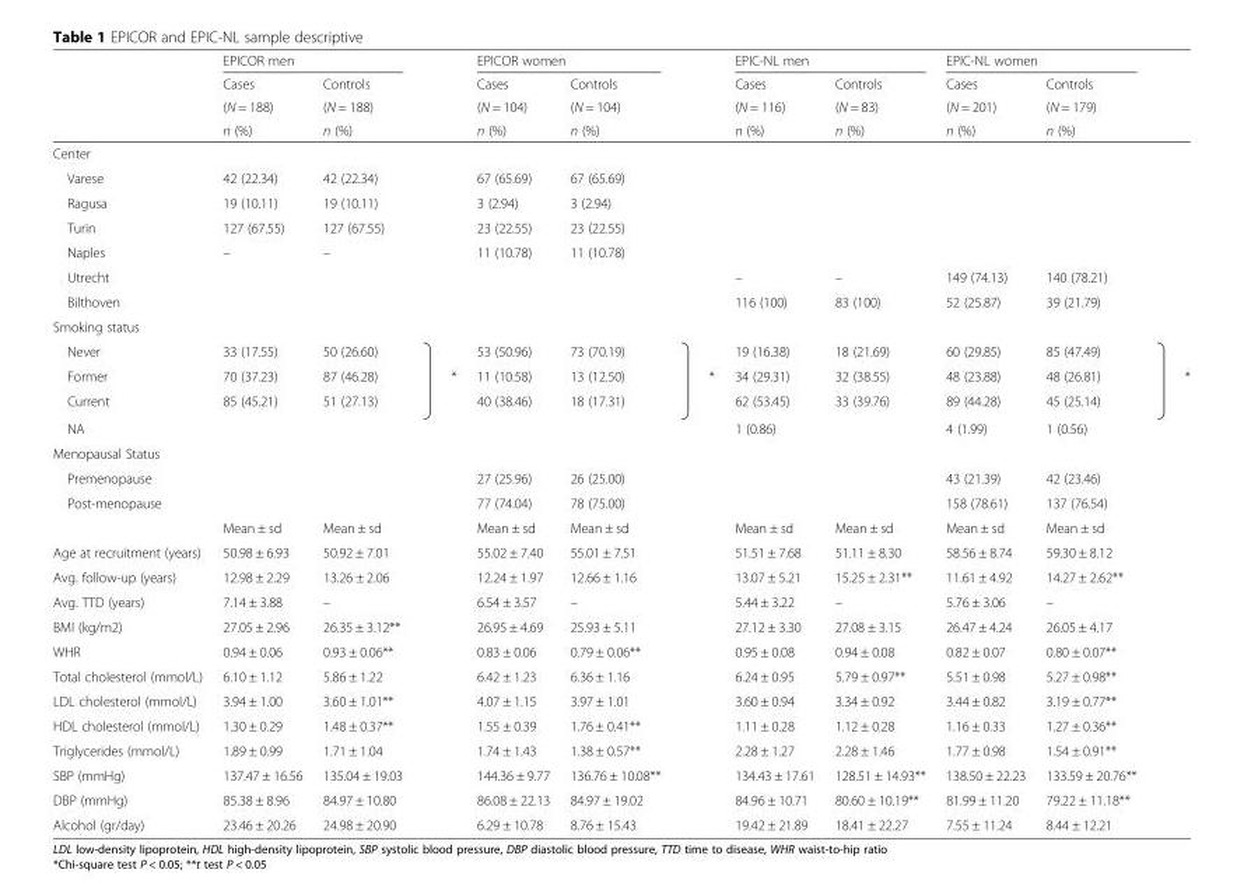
<table><thead><tr><td rowspan="4"></td><td colspan="2">EPICOR men</td><td rowspan="4"></td><td colspan="2">EPICOR women</td><td rowspan="4"></td><td colspan="2">EPIC-NL men</td><td colspan="2">EPIC-NL women</td><td rowspan="4"></td></tr><tr><td rowspan="3">Cases (N = 188) n (%)</td><td rowspan="3">Controls (N = 188) n (%)</td><td rowspan="3">Cases (N = 104) n (%)</td><td rowspan="3">Controls (N = 104) n (%)</td><td rowspan="3">Cases (N = 116) n (%)</td><td rowspan="3">Controls (N = 83) n (%)</td><td rowspan="3">Cases (N = 201) n (%)</td><td rowspan="3">Controls (N = 179) n (%)</td></tr><tr></tr><tr></tr></thead><tbody><tr><td colspan="12">Center</td></tr><tr><td>Varese</td><td>42 (22.34)</td><td>42 (22.34)</td><td></td><td>67 (65.69)</td><td>67 (65.69)</td><td></td><td></td><td></td><td></td><td></td><td></td></tr><tr><td>Ragusa</td><td>19 (10.11)</td><td>19 (10.11)</td><td></td><td>3 (2.94)</td><td>3 (2.94)</td><td></td><td></td><td></td><td></td><td></td><td></td></tr><tr><td>Turin</td><td>127 (67.55)</td><td>127 (67.55)</td><td></td><td>23 (22.55)</td><td>23 (22.55)</td><td></td><td></td><td></td><td></td><td></td><td></td></tr><tr><td>Naples</td><td>–</td><td>–</td><td></td><td>11 (10.78)</td><td>11 (10.78)</td><td></td><td></td><td></td><td></td><td></td><td></td></tr><tr><td>Utrecht</td><td></td><td></td><td></td><td></td><td></td><td></td><td>–</td><td>–</td><td>149 (74.13)</td><td>140 (78.21)</td><td></td></tr><tr><td>Bilthoven</td><td></td><td></td><td></td><td></td><td></td><td></td><td>116 (100)</td><td>83 (100)</td><td>52 (25.87)</td><td>39 (21.79)</td><td></td></tr><tr><td colspan="12">Smoking status</td></tr><tr><td>Never</td><td>33 (17.55)</td><td>50 (26.60)</td><td></td><td>53 (50.96)</td><td>73 (70.19)</td><td></td><td>19 (16.38)</td><td>18 (21.69)</td><td>60 (29.85)</td><td>85 (47.49)</td><td></td></tr><tr><td>Former</td><td>70 (37.23)</td><td>87 (46.28)</td><td>*</td><td>11 (10.58)</td><td>13 (12.50)</td><td>*</td><td>34 (29.31)</td><td>32 (38.55)</td><td>48 (23.88)</td><td>48 (26.81)</td><td>*</td></tr><tr><td>Current</td><td>85 (45.21)</td><td>51 (27.13)</td><td></td><td>40 (38.46)</td><td>18 (17.31)</td><td></td><td>62 (53.45)</td><td>33 (39.76)</td><td>89 (44.28)</td><td>45 (25.14)</td><td></td></tr><tr><td>NA</td><td></td><td></td><td></td><td></td><td></td><td></td><td>1 (0.86)</td><td></td><td>4 (1.99)</td><td>1 (0.56)</td><td></td></tr><tr><td colspan="12">Menopausal Status</td></tr><tr><td>Premenopause</td><td></td><td></td><td></td><td>27 (25.96)</td><td>26 (25.00)</td><td></td><td></td><td></td><td>43 (21.39)</td><td>42 (23.46)</td><td></td></tr><tr><td rowspan="2">Post-menopause</td><td></td><td></td><td></td><td>77 (74.04)</td><td>78 (75.00)</td><td></td><td></td><td></td><td>158 (78.61)</td><td>137 (76.54)</td><td></td></tr><tr><td>Mean ± sd</td><td>Mean ± sd</td><td></td><td>Mean ± sd</td><td>Mean ± sd</td><td></td><td>Mean ± sd</td><td>Mean ± sd</td><td>Mean ± sd</td><td>Mean ± sd</td><td></td></tr><tr><td>Age at recruitment (years)</td><td>50.98 ± 6.93</td><td>50.92 ± 7.01</td><td></td><td>55.02 ± 7.40</td><td>55.01 ± 7.51</td><td></td><td>51.51 ± 7.68</td><td>51.11 ± 8.30</td><td>58.56 ± 8.74</td><td>59.30 ± 8.12</td><td></td></tr><tr><td>Avg. follow-up (years)</td><td>12.98 ± 2.29</td><td>13.26 ± 2.06</td><td></td><td>12.24 ± 1.97</td><td>12.66 ± 1.16</td><td></td><td>13.07 ± 5.21</td><td>15.25 ± 2.31**</td><td>11.61 ± 4.92</td><td>14.27 ± 2.62**</td><td></td></tr><tr><td>Avg. TTD (years)</td><td>7.14 ± 3.88</td><td>–</td><td></td><td>6.54 ± 3.57</td><td>–</td><td></td><td>5.44 ± 3.22</td><td>–</td><td>5.76 ± 3.06</td><td>–</td><td></td></tr><tr><td>BMI (kg/m2)</td><td>27.05 ± 2.96</td><td>26.35 ± 3.12**</td><td></td><td>26.95 ± 4.69</td><td>25.93 ± 5.11</td><td></td><td>27.12 ± 3.30</td><td>27.08 ± 3.15</td><td>26.47 ± 4.24</td><td>26.05 ± 4.17</td><td></td></tr><tr><td>WHR</td><td>0.94 ± 0.06</td><td>0.93 ± 0.06**</td><td></td><td>0.83 ± 0.06</td><td>0.79 ± 0.06**</td><td></td><td>0.95 ± 0.08</td><td>0.94 ± 0.08</td><td>0.82 ± 0.07</td><td>0.80 ± 0.07**</td><td></td></tr><tr><td>Total cholesterol (mmol/L)</td><td>6.10 ± 1.12</td><td>5.86 ± 1.22</td><td></td><td>6.42 ± 1.23</td><td>6.36 ± 1.16</td><td></td><td>6.24 ± 0.95</td><td>5.79 ± 0.97**</td><td>5.51 ± 0.98</td><td>5.27 ± 0.98**</td><td></td></tr><tr><td>LDL cholesterol (mmol/L)</td><td>3.94 ± 1.00</td><td>3.60 ± 1.01**</td><td></td><td>4.07 ± 1.15</td><td>3.97 ± 1.01</td><td></td><td>3.60 ± 0.94</td><td>3.34 ± 0.92</td><td>3.44 ± 0.82</td><td>3.19 ± 0.77**</td><td></td></tr><tr><td>HDL cholesterol (mmol/L)</td><td>1.30 ± 0.29</td><td>1.48 ± 0.37**</td><td></td><td>1.55 ± 0.39</td><td>1.76 ± 0.41**</td><td></td><td>1.11 ± 0.28</td><td>1.12 ± 0.28</td><td>1.16 ± 0.33</td><td>1.27 ± 0.36**</td><td></td></tr><tr><td>Triglycerides (mmol/L)</td><td>1.89 ± 0.99</td><td>1.71 ± 1.04</td><td></td><td>1.74 ± 1.43</td><td>1.38 ± 0.57**</td><td></td><td>2.28 ± 1.27</td><td>2.28 ± 1.46</td><td>1.77 ± 0.98</td><td>1.54 ± 0.91**</td><td></td></tr><tr><td>SBP (mmHg)</td><td>137.47 ± 16.56</td><td>135.04 ± 19.03</td><td></td><td>144.36 ± 9.77</td><td>136.76 ± 10.08**</td><td></td><td>134.43 ± 17.61</td><td>128.51 ± 14.93**</td><td>138.50 ± 22.23</td><td>133.59 ± 20.76**</td><td></td></tr><tr><td>DBP (mmHg)</td><td>85.38 ± 8.96</td><td>84.97 ± 10.80</td><td></td><td>86.08 ± 22.13</td><td>84.97 ± 19.02</td><td></td><td>84.96 ± 10.71</td><td>80.60 ± 10.19**</td><td>81.99 ± 11.20</td><td>79.22 ± 11.18**</td><td></td></tr><tr><td>Alcohol (gr/day)</td><td>23.46 ± 20.26</td><td>24.98 ± 20.90</td><td></td><td>6.29 ± 10.78</td><td>8.76 ± 15.43</td><td></td><td>19.42 ± 21.89</td><td>18.41 ± 22.27</td><td>7.55 ± 11.24</td><td>8.44 ± 12.21</td><td></td></tr></tbody></table>